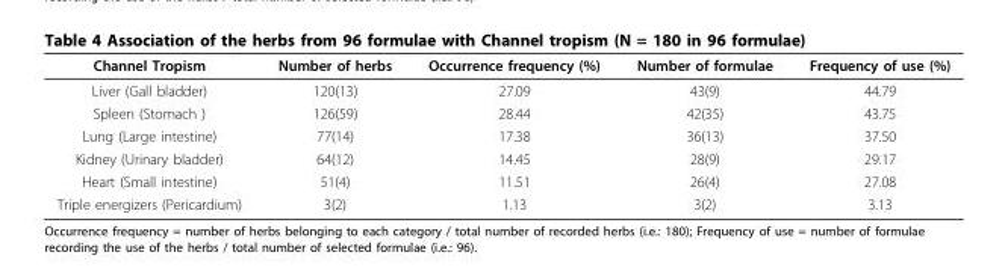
<table><thead><tr><td>Channel Tropism</td><td>Number of herbs</td><td>Occurrence frequency (%)</td><td>Number of formulae</td><td>Frequency of use (%)</td></tr></thead><tbody><tr><td>Liver (Gall bladder)</td><td>120(13)</td><td>27.09</td><td>43(9)</td><td>44.79</td></tr><tr><td>Spleen (Stomach )</td><td>126(59)</td><td>28.44</td><td>42(35)</td><td>43.75</td></tr><tr><td>Lung (Large intestine)</td><td>77(14)</td><td>17.38</td><td>36(13)</td><td>37.50</td></tr><tr><td>Kidney (Urinary bladder)</td><td>64(12)</td><td>14.45</td><td>28(9)</td><td>29.17</td></tr><tr><td>Heart (Small intestine)</td><td>51(4)</td><td>11.51</td><td>26(4)</td><td>27.08</td></tr><tr><td>Triple energizers (Pericardium)</td><td>3(2)</td><td>1.13</td><td>3(2)</td><td>3.13</td></tr></tbody></table>